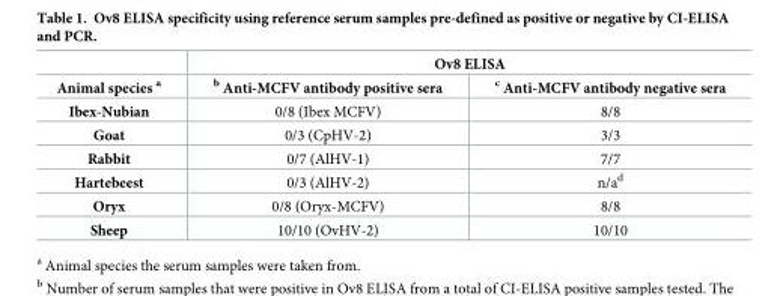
<table><thead><tr><td rowspan="2">Animal species <sup>a</sup></td><td colspan="2">Ov8 ELISA</td></tr><tr><td><sup>b</sup> Anti-MCFV antibody positive sera</td><td><sup>c</sup> Anti-MCFV antibody negative sera</td></tr></thead><tbody><tr><td>Ibex-Nubian</td><td>0/8 (Ibex MCFV)</td><td>8/8</td></tr><tr><td>Goat</td><td>0/3 (CpHV-2)</td><td>3/3</td></tr><tr><td>Rabbit</td><td>0/7 (AlHV-1)</td><td>7/7</td></tr><tr><td>Hartebeest</td><td>0/3 (AlHV-2)</td><td>n/a<sup>d</sup></td></tr><tr><td>Oryx</td><td>0/8 (Oryx-MCFV)</td><td>8/8</td></tr><tr><td>Sheep</td><td>10/10 (OvHV-2)</td><td>10/10</td></tr></tbody></table>